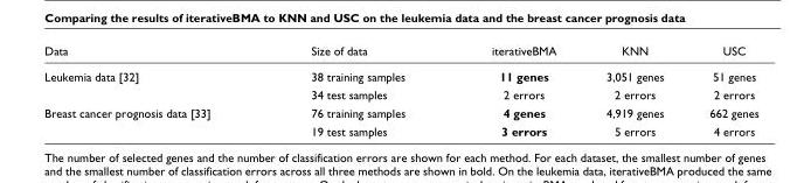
<table><thead><tr><td>Data</td><td>Size of data</td><td>iterativeBMA</td><td>KNN</td><td>USC</td></tr></thead><tbody><tr><td rowspan="2">Leukemia data [32]</td><td>38 training samples</td><td>11 genes</td><td>3,051 genes</td><td>51 genes</td></tr><tr><td>34 test samples</td><td>2 errors</td><td>2 errors</td><td>2 errors</td></tr><tr><td rowspan="2">Breast cancer prognosis data [33]</td><td>76 training samples</td><td>4 genes</td><td>4,919 genes</td><td>662 genes</td></tr><tr><td>19 test samples</td><td>3 errors</td><td>5 errors</td><td>4 errors</td></tr></tbody></table>